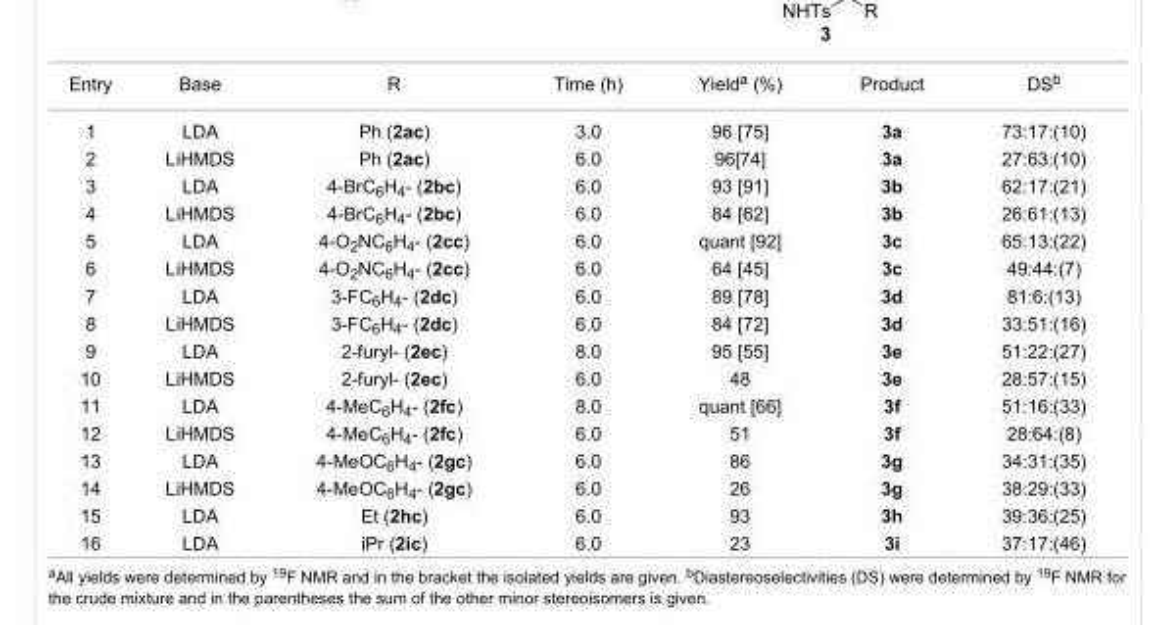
<table><tbody><tr><td>Entry</td><td>Base</td><td>R</td><td>Time (h)</td><td>Yield<sup>a</sup> (%)</td><td>Product</td><td>DS<sup>b</sup></td></tr><tr><td>1</td><td>LDA</td><td>Ph (2ac)</td><td>3.0</td><td>96 [75]</td><td>3a</td><td>73:17:(10)</td></tr><tr><td>2</td><td>LiHMDS</td><td>Ph (2ac)</td><td>6.0</td><td>96[74]</td><td>3a</td><td>27:63:(10)</td></tr><tr><td>3</td><td>LDA</td><td>4-BrC<sub>6</sub>H<sub>4</sub>- (2bc)</td><td>6.0</td><td>93 [91]</td><td>3b</td><td>62:17:(21)</td></tr><tr><td>4</td><td>LiHMDS</td><td>4-BrC<sub>6</sub>H<sub>4</sub>- (2bc)</td><td>6.0</td><td>84 [62]</td><td>3b</td><td>26:61:(13)</td></tr><tr><td>5</td><td>LDA</td><td>4-O<sub>2</sub>NC<sub>6</sub>H<sub>4</sub>- (2cc)</td><td>6.0</td><td>quant [92]</td><td>3c</td><td>65:13:(22)</td></tr><tr><td>6</td><td>LiHMDS</td><td>4-O<sub>2</sub>NC<sub>6</sub>H<sub>4</sub>- (2cc)</td><td>6.0</td><td>64 [45]</td><td>3c</td><td>49:44:(7)</td></tr><tr><td>7</td><td>LDA</td><td>3-FC<sub>6</sub>H<sub>4</sub>- (2dc)</td><td>6.0</td><td>89 [78]</td><td>3d</td><td>81:6:(13)</td></tr><tr><td>8</td><td>LiHMDS</td><td>3-FC<sub>6</sub>H<sub>4</sub>- (2dc)</td><td>6.0</td><td>84 [72]</td><td>3d</td><td>33:51:(16)</td></tr><tr><td>9</td><td>LDA</td><td>2-furyl- (2ec)</td><td>8.0</td><td>95 [55]</td><td>3e</td><td>51:22:(27)</td></tr><tr><td>10</td><td>LiHMDS</td><td>2-furyl- (2ec)</td><td>6.0</td><td>48</td><td>3e</td><td>28:57:(15)</td></tr><tr><td>11</td><td>LDA</td><td>4-MeC<sub>6</sub>H<sub>4</sub>- (2fc)</td><td>8.0</td><td>quant [66]</td><td>3f</td><td>51:16:(33)</td></tr><tr><td>12</td><td>LiHMDS</td><td>4-MeC<sub>6</sub>H<sub>4</sub>- (2fc)</td><td>6.0</td><td>51</td><td>3f</td><td>28:64:(8)</td></tr><tr><td>13</td><td>LDA</td><td>4-MeOC<sub>6</sub>H<sub>4</sub>- (2gc)</td><td>6.0</td><td>86</td><td>3g</td><td>34:31:(35)</td></tr><tr><td>14</td><td>LiHMDS</td><td>4-MeOC<sub>6</sub>H<sub>4</sub>- (2gc)</td><td>6.0</td><td>26</td><td>3g</td><td>38:29:(33)</td></tr><tr><td>15</td><td>LDA</td><td>Et (2hc)</td><td>6.0</td><td>93</td><td>3h</td><td>39:36:(25)</td></tr><tr><td>16</td><td>LDA</td><td>iPr (2ic)</td><td>6.0</td><td>23</td><td>3i</td><td>37:17:(46)</td></tr></tbody></table>